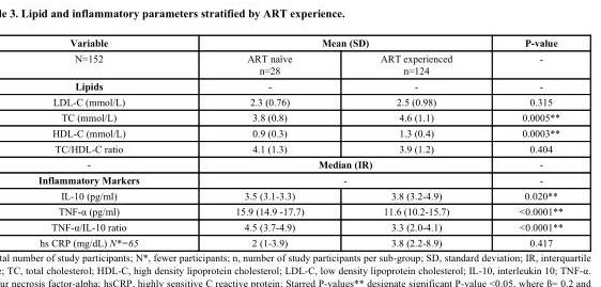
<table><thead><tr><td rowspan="2">Variable N=152</td><td colspan="2">Mean (SD)</td><td rowspan="2">P-value -</td></tr><tr><td>ART naïve n=28</td><td>ART experienced n=124</td></tr></thead><tbody><tr><td>Lipids</td><td>-</td><td>-</td><td>-</td></tr><tr><td>LDL-C (mmol/L)</td><td>2.3 (0.76)</td><td>2.5 (0.98)</td><td>0.315</td></tr><tr><td>TC (mmol/L)</td><td>3.8 (0.8)</td><td>4.6 (1.1)</td><td>0.0005**</td></tr><tr><td>HDL-C (mmol/L)</td><td>0.9 (0.3)</td><td>1.3 (0.4)</td><td>0.0003**</td></tr><tr><td>TC/HDL-C ratio</td><td>4.1 (1.3)</td><td>3.9 (1.2)</td><td>0.404</td></tr><tr><td>-</td><td colspan="2">Median (IR)</td><td>-</td></tr><tr><td>Inflammatory Markers</td><td colspan="2">-</td><td>-</td></tr><tr><td>IL-10 (pg/ml)</td><td>3.5 (3.1-3.3)</td><td>3.8 (3.2-4.9)</td><td>0.020**</td></tr><tr><td>TNF-α (pg/ml)</td><td>15.9 (14.9 -17.7)</td><td>11.6 (10.2-15.7)</td><td>&lt;0.0001**</td></tr><tr><td>TNF-α/IL-10 ratio</td><td>4.5 (3.7-4.9)</td><td>3.3 (2.0-4.1)</td><td>&lt;0.0001**</td></tr><tr><td>hs CRP (mg/dL) N*=65</td><td>2 (1-3.9)</td><td>3.8 (2.2-8.9)</td><td>0.417</td></tr></tbody></table>